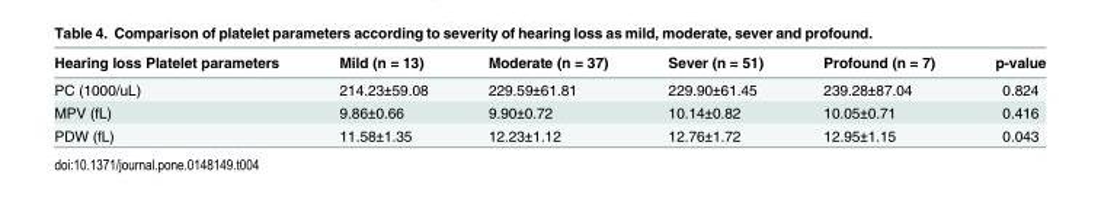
<table><thead><tr><td>Hearing loss Platelet parameters</td><td>Mild (n = 13)</td><td>Moderate (n = 37)</td><td>Sever (n = 51)</td><td>Profound (n = 7)</td><td>p-value</td></tr></thead><tbody><tr><td>PC (1000/uL)</td><td>214.23±59.08</td><td>229.59±61.81</td><td>229.90±61.45</td><td>239.28±87.04</td><td>0.824</td></tr><tr><td>MPV (fL)</td><td>9.86±0.66</td><td>9.90±0.72</td><td>10.14±0.82</td><td>10.05±0.71</td><td>0.416</td></tr><tr><td>PDW (fL)</td><td>11.58±1.35</td><td>12.23±1.12</td><td>12.76±1.72</td><td>12.95±1.15</td><td>0.043</td></tr></tbody></table>